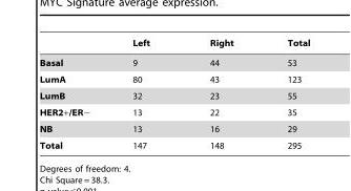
<table><thead><tr><td></td><td>Left</td><td>Right</td><td>Total</td></tr></thead><tbody><tr><td>Basal</td><td>9</td><td>44</td><td>53</td></tr><tr><td>LumA</td><td>80</td><td>43</td><td>123</td></tr><tr><td>LumB</td><td>32</td><td>23</td><td>55</td></tr><tr><td>HER2+/ER−</td><td>13</td><td>22</td><td>35</td></tr><tr><td>NB</td><td>13</td><td>16</td><td>29</td></tr><tr><td>Total</td><td>147</td><td>148</td><td>295</td></tr></tbody></table>